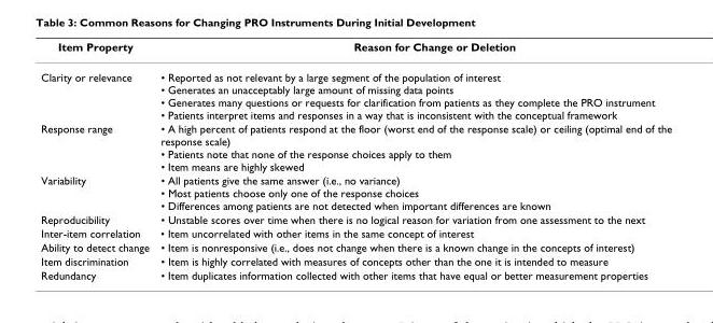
<table><thead><tr><td>Item Property</td><td>Reason for Change or Deletion</td></tr></thead><tbody><tr><td>Clarity or relevance</td><td>• Reported as not relevant by a large segment of the population of interest • Generates an unacceptably large amount of missing data points • Generates many questions or requests for clarification from patients as they complete the PRO instrument • Patients interpret items and responses in a way that is inconsistent with the conceptual framework</td></tr><tr><td>Response range</td><td>• A high percent of patients respond at the floor (worst end of the response scale) or ceiling (optimal end of the response scale) • Patients note that none of the response choices apply to them • Item means are highly skewed</td></tr><tr><td>Variability</td><td>• All patients give the same answer (i.e., no variance) • Most patients choose only one of the response choices • Differences among patients are not detected when important differences are known</td></tr><tr><td>Reproducibility</td><td>• Unstable scores over time when there is no logical reason for variation from one assessment to the next</td></tr><tr><td>Inter-item correlation</td><td>• Item uncorrelated with other items in the same concept of interest</td></tr><tr><td>Ability to detect change</td><td>• Item is nonresponsive (i.e., does not change when there is a known change in the concepts of interest)</td></tr><tr><td>Item discrimination</td><td>• Item is highly correlated with measures of concepts other than the one it is intended to measure</td></tr><tr><td>Redundancy</td><td>• Item duplicates information collected with other items that have equal or better measurement properties</td></tr></tbody></table>